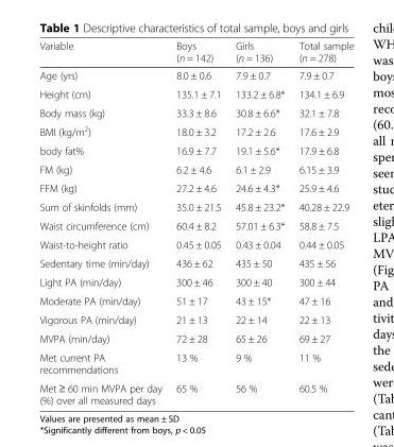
<table><thead><tr><td>Variable</td><td>Boys (n = 142)</td><td>Girls (n = 136)</td><td>Total sample (n = 278)</td></tr></thead><tbody><tr><td>Age (yrs)</td><td>8.0 ± 0.6</td><td>7.9 ± 0.7</td><td>7.9 ± 0.7</td></tr><tr><td>Height (cm)</td><td>135.1 ± 7.1</td><td>133.2 ± 6.8*</td><td>134.1 ± 6.9</td></tr><tr><td>Body mass (kg)</td><td>33.3 ± 8.6</td><td>30.8 ± 6.6*</td><td>32.1 ± 7.8</td></tr><tr><td>BMI (kg/m<sup>2</sup>)</td><td>18.0 ± 3.2</td><td>17.2 ± 2.6</td><td>17.6 ± 2.9</td></tr><tr><td>body fat%</td><td>16.9 ± 7.7</td><td>19.1 ± 5.6*</td><td>17.9 ± 6.8</td></tr><tr><td>FM (kg)</td><td>6.2 ± 4.6</td><td>6.1 ± 2.9</td><td>6.15 ± 3.9</td></tr><tr><td>FFM (kg)</td><td>27.2 ± 4.6</td><td>24.6 ± 4.3*</td><td>25.9 ± 4.6</td></tr><tr><td>Sum of skinfolds (mm)</td><td>35.0 ± 21.5</td><td>45.8 ± 23.2*</td><td>40.28 ± 22.9</td></tr><tr><td>Waist circumference (cm)</td><td>60.4 ± 8.2</td><td>57.01 ± 6.3*</td><td>58.8 ± 7.5</td></tr><tr><td>Waist-to-height ratio</td><td>0.45 ± 0.05</td><td>0.43 ± 0.04</td><td>0.44 ± 0.05</td></tr><tr><td>Sedentary time (min/day)</td><td>436 ± 62</td><td>435 ± 50</td><td>435 ± 56</td></tr><tr><td>Light PA (min/day)</td><td>300 ± 46</td><td>300 ± 40</td><td>300 ± 44</td></tr><tr><td>Moderate PA (min/day)</td><td>51 ± 17</td><td>43 ± 15*</td><td>47 ± 16</td></tr><tr><td>Vigorous PA (min/day)</td><td>21 ± 13</td><td>22 ± 14</td><td>22 ± 13</td></tr><tr><td>MVPA (min/day)</td><td>72 ± 28</td><td>65 ± 26</td><td>69 ± 27</td></tr><tr><td>Met current PA recommendations</td><td>13 %</td><td>9 %</td><td>11 %</td></tr><tr><td>Met ≥ 60 min MVPA per day (%) over all measured days</td><td>65 %</td><td>56 %</td><td>60.5 %</td></tr></tbody></table>